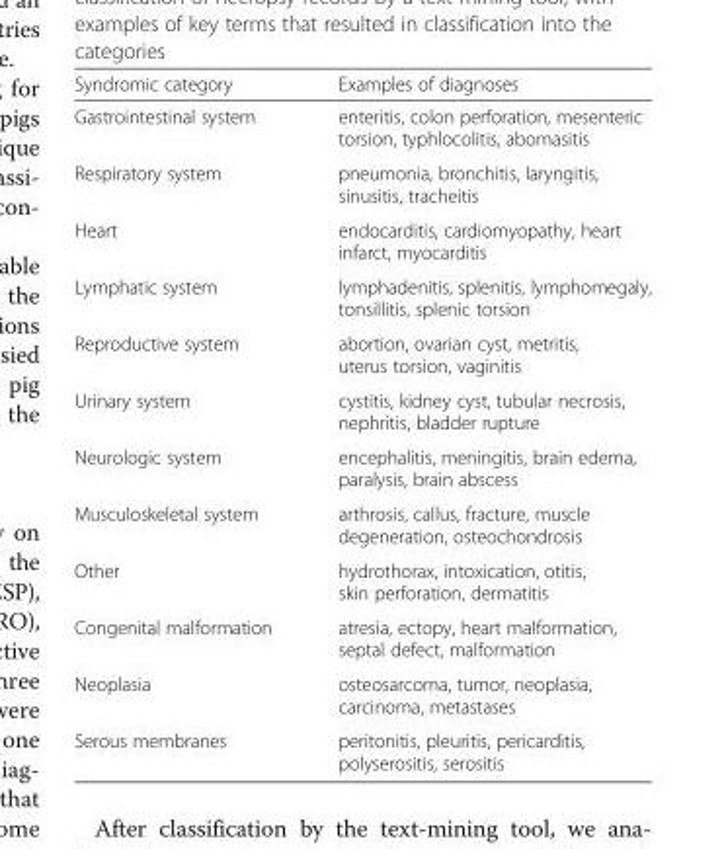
<table><thead><tr><td>Syndromic category</td><td>Examples of diagnoses</td></tr></thead><tbody><tr><td>Gastrointestinal system</td><td>enteritis, colon perforation, mesenteric torsion, typhlocolitis, abomasitis</td></tr><tr><td>Respiratory system</td><td>pneumonia, bronchitis, laryngitis, sinusitis, tracheitis</td></tr><tr><td>Heart</td><td>endocarditis, cardiomyopathy, heart infarct, myocarditis</td></tr><tr><td>Lymphatic system</td><td>lymphadenitis, splenitis, lymphomegaly, tonsillitis, splenic torsion</td></tr><tr><td>Reproductive system</td><td>abortion, ovarian cyst, metritis, uterus torsion, vaginitis</td></tr><tr><td>Urinary system</td><td>cystitis, kidney cyst, tubular necrosis, nephritis, bladder rupture</td></tr><tr><td>Neurologic system</td><td>encephalitis, meningitis, brain edema, paralysis, brain abscess</td></tr><tr><td>Musculoskeletal system</td><td>arthrosis, callus, fracture, muscle degeneration, osteochondrosis</td></tr><tr><td>Other</td><td>hydrothorax, intoxication, otitis, skin perforation, dermatitis</td></tr><tr><td>Congenital malformation</td><td>atresia, ectopy, heart malformation, septal defect, malformation</td></tr><tr><td>Neoplasia</td><td>osteosarcoma, tumor, neoplasia, carcinoma, metastases</td></tr><tr><td>Serous membranes</td><td>peritonitis, pleuritis, pericarditis, polyserositis, serositis</td></tr></tbody></table>